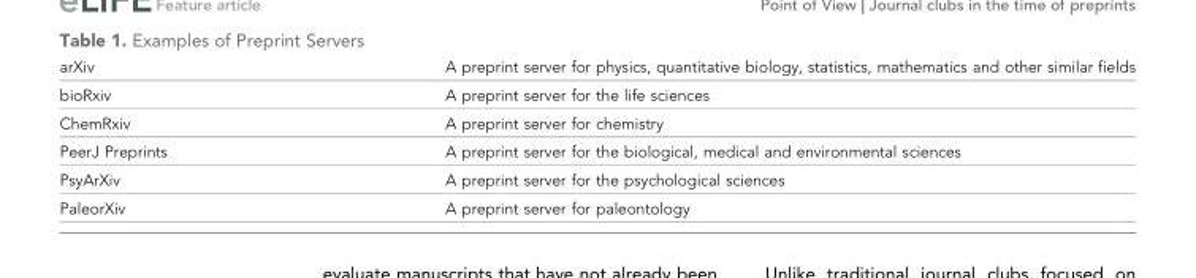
<table><tbody><tr><td>arXiv</td><td>A preprint server for physics, quantitative biology, statistics, mathematics and other similar fields</td></tr><tr><td>bioRxiv</td><td>A preprint server for the life sciences</td></tr><tr><td>ChemRxiv</td><td>A preprint server for chemistry</td></tr><tr><td>PeerJ Preprints</td><td>A preprint server for the biological, medical and environmental sciences</td></tr><tr><td>PsyArXiv</td><td>A preprint server for the psychological sciences</td></tr><tr><td>PaleorXiv</td><td>A preprint server for paleontology</td></tr></tbody></table>